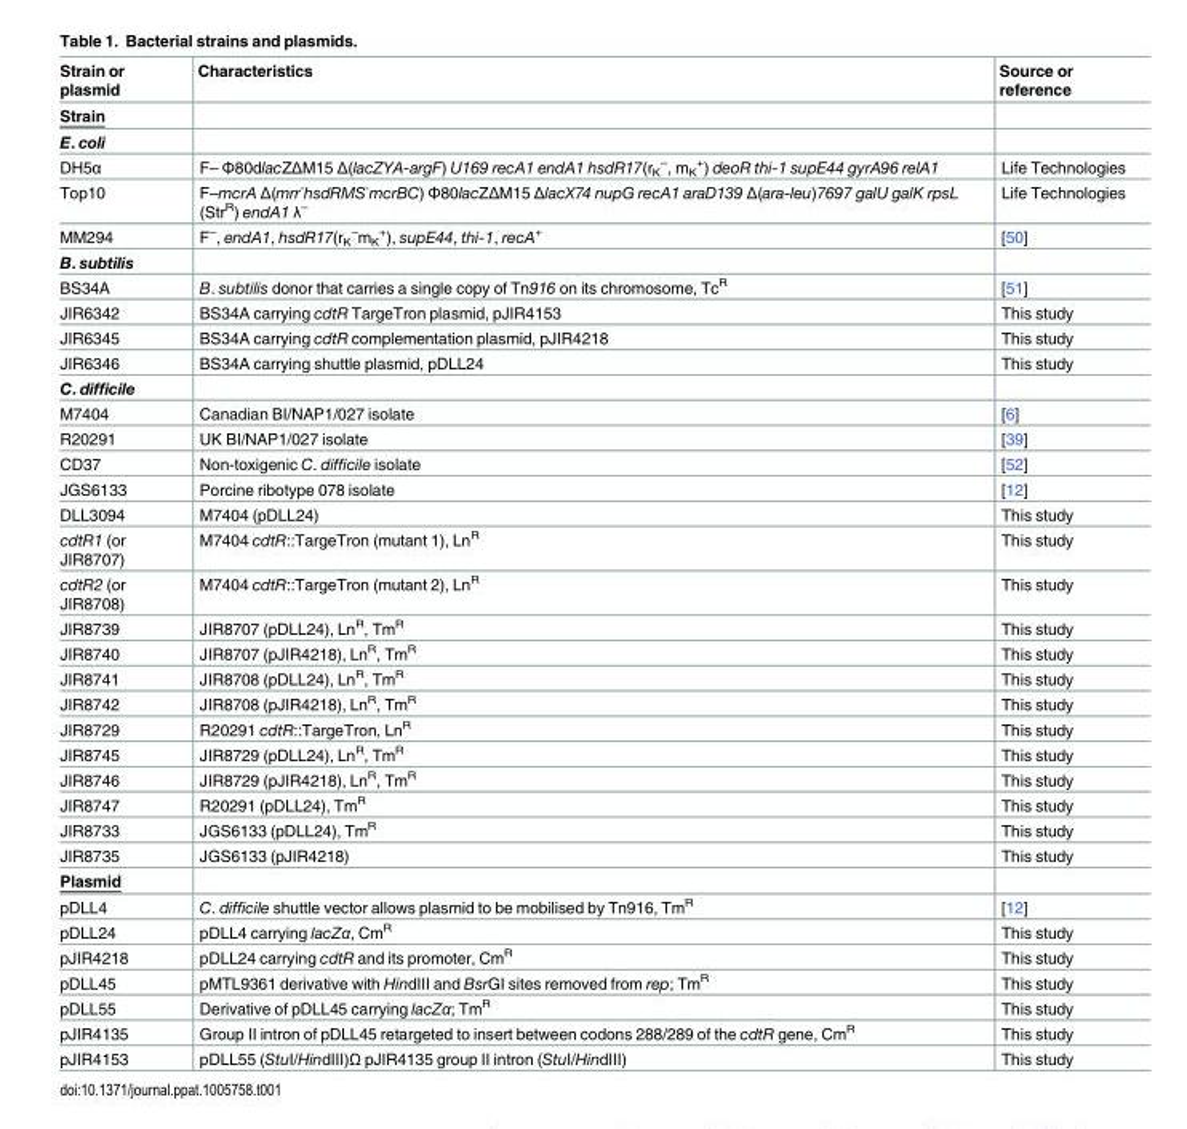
<table><thead><tr><td>Strain or plasmid</td><td>Characteristics</td><td>Source or reference</td></tr></thead><tbody><tr><td colspan="3">Strain</td></tr><tr><td colspan="3">E. coli</td></tr><tr><td>DH5α</td><td>F– Φ80dlacZΔM15 Δ(lacZYA-argF) U169 recA1 endA1 hsdR17(r<sub>K</sub> <sup>–</sup>, m<sub>K</sub> <sup>+</sup>) deoR thi-1 supE44 gyrA96 relA1</td><td>Life Technologies</td></tr><tr><td>Top10</td><td>F–mcrA Δ(mrr<sup>-</sup>hsdRMS<sup>-</sup>mcrBC) Φ80lacZΔM15 ΔlacX74 nupG recA1 araD139 Δ(ara-leu)7697 galU galK rpsL (Str<sup>R</sup>) endA1 λ<sup>–</sup></td><td>Life Technologies</td></tr><tr><td>MM294</td><td>F<sup>–</sup>, endA1, hsdR17(r<sub>K</sub> <sup>–</sup>m<sub>K</sub> <sup>+</sup>), supE44, thi-1, recA<sup>+</sup></td><td>[50]</td></tr><tr><td colspan="3">B. subtilis</td></tr><tr><td>BS34A</td><td>B. subtilis donor that carries a single copy of Tn916 on its chromosome, Tc<sup>R</sup></td><td>[51]</td></tr><tr><td>JIR6342</td><td>BS34A carrying cdtR TargeTron plasmid, pJIR4153</td><td>This study</td></tr><tr><td>JIR6345</td><td>BS34A carrying cdtR complementation plasmid, pJIR4218</td><td>This study</td></tr><tr><td>JIR6346</td><td>BS34A carrying shuttle plasmid, pDLL24</td><td>This study</td></tr><tr><td colspan="3">C. difficile</td></tr><tr><td>M7404</td><td>Canadian BI/NAP1/027 isolate</td><td>[6]</td></tr><tr><td>R20291</td><td>UK BI/NAP1/027 isolate</td><td>[39]</td></tr><tr><td>CD37</td><td>Non-toxigenic C. difficile isolate</td><td>[52]</td></tr><tr><td>JGS6133</td><td>Porcine ribotype 078 isolate</td><td>[12]</td></tr><tr><td>DLL3094</td><td>M7404 (pDLL24)</td><td>This study</td></tr><tr><td>cdtR1 (or JIR8707)</td><td>M7404 cdtR::TargeTron (mutant 1), Ln<sup>R</sup></td><td>This study</td></tr><tr><td>cdtR2 (or JIR8708)</td><td>M7404 cdtR::TargeTron (mutant 2), Ln<sup>R</sup></td><td>This study</td></tr><tr><td>JIR8739</td><td>JIR8707 (pDLL24), Ln<sup>R</sup>, Tm<sup>R</sup></td><td>This study</td></tr><tr><td>JIR8740</td><td>JIR8707 (pJIR4218), Ln<sup>R</sup>, Tm<sup>R</sup></td><td>This study</td></tr><tr><td>JIR8741</td><td>JIR8708 (pDLL24), Ln<sup>R</sup>, Tm<sup>R</sup></td><td>This study</td></tr><tr><td>JIR8742</td><td>JIR8708 (pJIR4218), Ln<sup>R</sup>, Tm<sup>R</sup></td><td>This study</td></tr><tr><td>JIR8729</td><td>R20291 cdtR::TargeTron, Ln<sup>R</sup></td><td>This study</td></tr><tr><td>JIR8745</td><td>JIR8729 (pDLL24), Ln<sup>R</sup>, Tm<sup>R</sup></td><td>This study</td></tr><tr><td>JIR8746</td><td>JIR8729 (pJIR4218), Ln<sup>R</sup>, Tm<sup>R</sup></td><td>This study</td></tr><tr><td>JIR8747</td><td>R20291 (pDLL24), Tm<sup>R</sup></td><td>This study</td></tr><tr><td>JIR8733</td><td>JGS6133 (pDLL24), Tm<sup>R</sup></td><td>This study</td></tr><tr><td>JIR8735</td><td>JGS6133 (pJIR4218)</td><td>This study</td></tr><tr><td colspan="3">Plasmid</td></tr><tr><td>pDLL4</td><td>C. difficile shuttle vector allows plasmid to be mobilised by Tn916, Tm<sup>R</sup></td><td>[12]</td></tr><tr><td>pDLL24</td><td>pDLL4 carrying lacZα, Cm<sup>R</sup></td><td>This study</td></tr><tr><td>pJIR4218</td><td>pDLL24 carrying cdtR and its promoter, Cm<sup>R</sup></td><td>This study</td></tr><tr><td>pDLL45</td><td>pMTL9361 derivative with HindIII and BsrGI sites removed from rep; Tm<sup>R</sup></td><td>This study</td></tr><tr><td>pDLL55</td><td>Derivative of pDLL45 carrying lacZα; Tm<sup>R</sup></td><td>This study</td></tr><tr><td>pJIR4135</td><td>Group II intron of pDLL45 retargeted to insert between codons 288/289 of the cdtR gene, Cm<sup>R</sup></td><td>This study</td></tr><tr><td>pJIR4153</td><td>pDLL55 (StuI/HindIII)Ω pJIR4135 group II intron (StuI/HindIII)</td><td>This study</td></tr></tbody></table>